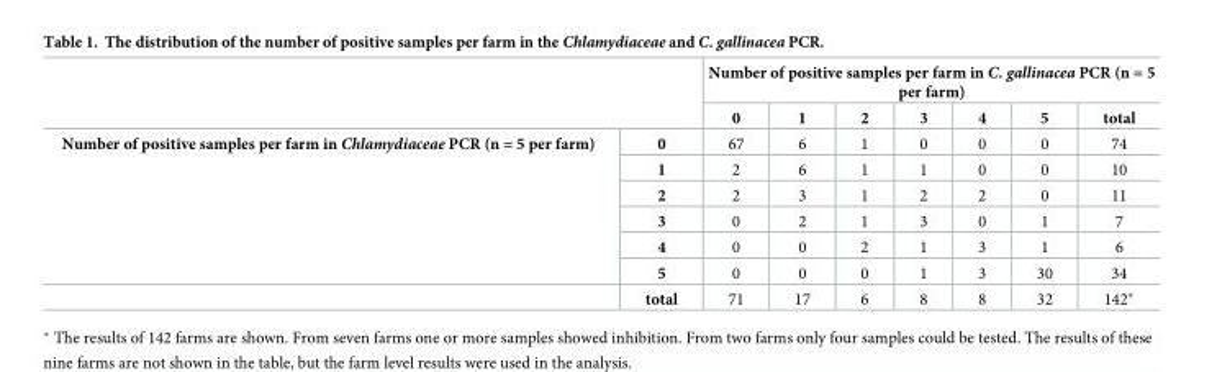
<table><thead><tr><td rowspan="2"></td><td rowspan="2"></td><td colspan="7">Number of positive samples per farm in C. gallinacea PCR (n = 5 per farm)</td></tr><tr><td>0</td><td>1</td><td>2</td><td>3</td><td>4</td><td>5</td><td>total</td></tr></thead><tbody><tr><td rowspan="7">Number of positive samples per farm in Chlamydiaceae PCR (n = 5 per farm)</td><td>0</td><td>67</td><td>6</td><td>1</td><td>0</td><td>0</td><td>0</td><td>74</td></tr><tr><td>1</td><td>2</td><td>6</td><td>1</td><td>1</td><td>0</td><td>0</td><td>10</td></tr><tr><td>2</td><td>2</td><td>3</td><td>1</td><td>2</td><td>2</td><td>0</td><td>11</td></tr><tr><td>3</td><td>0</td><td>2</td><td>1</td><td>3</td><td>0</td><td>1</td><td>7</td></tr><tr><td>4</td><td>0</td><td>0</td><td>2</td><td>1</td><td>3</td><td>1</td><td>6</td></tr><tr><td>5</td><td>0</td><td>0</td><td>0</td><td>1</td><td>3</td><td>30</td><td>34</td></tr><tr><td>total</td><td>71</td><td>17</td><td>6</td><td>8</td><td>8</td><td>32</td><td>142*</td></tr></tbody></table>